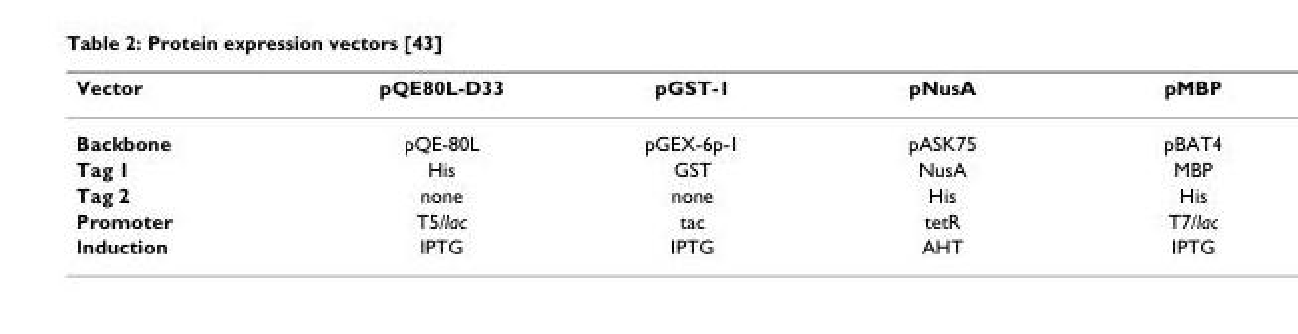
<table><thead><tr><td>Vector</td><td>pQE80L-D33</td><td>pGST-1</td><td>pNusA</td><td>pMBP</td></tr></thead><tbody><tr><td>Backbone</td><td>pQE-80L</td><td>pGEX-6p-1</td><td>pASK75</td><td>pBAT4</td></tr><tr><td>Tag 1</td><td>His</td><td>GST</td><td>NusA</td><td>MBP</td></tr><tr><td>Tag 2</td><td>none</td><td>none</td><td>His</td><td>His</td></tr><tr><td>Promoter</td><td>T5/lac</td><td>tac</td><td>tetR</td><td>T7/lac</td></tr><tr><td>Induction</td><td>IPTG</td><td>IPTG</td><td>AHT</td><td>IPTG</td></tr></tbody></table>